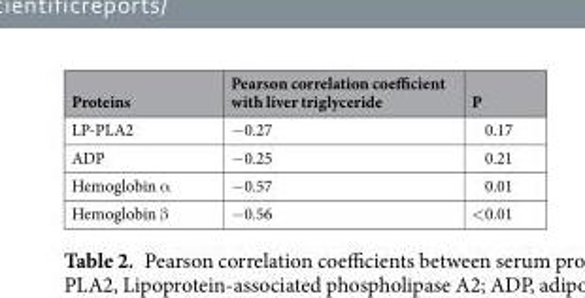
<table><thead><tr><td>Proteins</td><td>Pearson correlation coefficient with liver triglyceride</td><td>P</td></tr></thead><tbody><tr><td>LP-PLA2</td><td>−0.27</td><td>0.17</td></tr><tr><td>ADP</td><td>−0.25</td><td>0.21</td></tr><tr><td>Hemoglobin α</td><td>−0.57</td><td>0.01</td></tr><tr><td>Hemoglobin β</td><td>−0.56</td><td>&lt;0.01</td></tr></tbody></table>